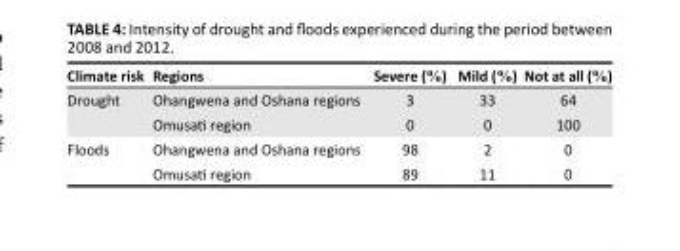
<table><thead><tr><td>Climate risk</td><td>Regions</td><td>Severe (%)</td><td>Mild (%)</td><td>Not at all (%)</td></tr></thead><tbody><tr><td rowspan="2">Drought</td><td>Ohangwena and Oshana regions</td><td>3</td><td>33</td><td>64</td></tr><tr><td>Omusati region</td><td>0</td><td>0</td><td>100</td></tr><tr><td rowspan="2">Floods</td><td>Ohangwena and Oshana regions</td><td>98</td><td>2</td><td>0</td></tr><tr><td>Omusati region</td><td>89</td><td>11</td><td>0</td></tr></tbody></table>